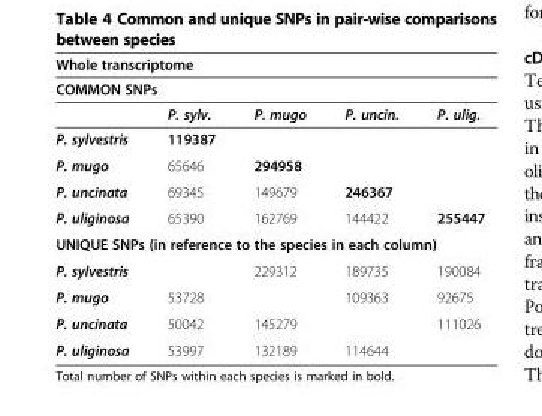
<table><thead><tr><td rowspan="2" colspan="5">Whole transcriptome COMMON SNPs</td></tr><tr></tr><tr><td></td><td>P. sylv.</td><td>P. mugo</td><td>P. uncin.</td><td>P. ulig.</td></tr></thead><tbody><tr><td>P. sylvestris</td><td>119387</td><td></td><td></td><td></td></tr><tr><td>P. mugo</td><td>65646</td><td>294958</td><td></td><td></td></tr><tr><td>P. uncinata</td><td>69345</td><td>149679</td><td>246367</td><td></td></tr><tr><td>P. uliginosa</td><td>65390</td><td>162769</td><td>144422</td><td>255447</td></tr><tr><td colspan="5">UNIQUE SNPs (in reference to the species in each column)</td></tr><tr><td>P. sylvestris</td><td></td><td>229312</td><td>189735</td><td>190084</td></tr><tr><td>P. mugo</td><td>53728</td><td></td><td>109363</td><td>92675</td></tr><tr><td>P. uncinata</td><td>50042</td><td>145279</td><td></td><td>111026</td></tr><tr><td>P. uliginosa</td><td>53997</td><td>132189</td><td>114644</td><td></td></tr></tbody></table>